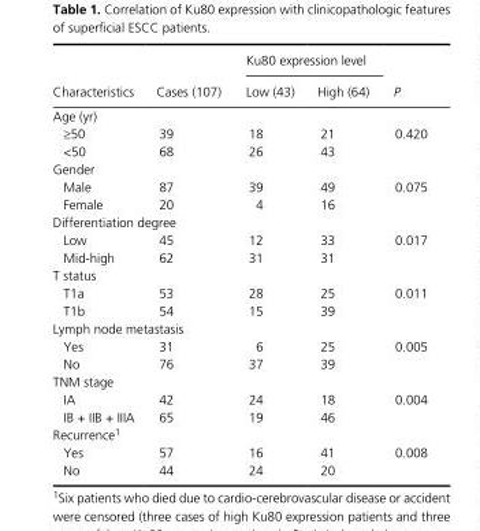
<table><thead><tr><td rowspan="2">Characteristics</td><td rowspan="2">Cases (107)</td><td colspan="2">Ku80 expression level</td><td rowspan="2">P</td></tr><tr><td>Low (43)</td><td>High (64)</td></tr></thead><tbody><tr><td colspan="5">Age (yr)</td></tr><tr><td>≥50</td><td>39</td><td>18</td><td>21</td><td>0.420</td></tr><tr><td>&lt;50</td><td>68</td><td>26</td><td>43</td><td></td></tr><tr><td colspan="5">Gender</td></tr><tr><td>Male</td><td>87</td><td>39</td><td>49</td><td>0.075</td></tr><tr><td>Female</td><td>20</td><td>4</td><td>16</td><td></td></tr><tr><td colspan="5">Differentiation degree</td></tr><tr><td>Low</td><td>45</td><td>12</td><td>33</td><td>0.017</td></tr><tr><td>Mid- high</td><td>62</td><td>31</td><td>31</td><td></td></tr><tr><td colspan="5">T status</td></tr><tr><td>T1a</td><td>53</td><td>28</td><td>25</td><td>0.011</td></tr><tr><td>T1b</td><td>54</td><td>15</td><td>39</td><td></td></tr><tr><td colspan="5">Lymph node metastasis</td></tr><tr><td>Yes</td><td>31</td><td>6</td><td>25</td><td>0.005</td></tr><tr><td>No</td><td>76</td><td>37</td><td>39</td><td></td></tr><tr><td colspan="5">TNM stage</td></tr><tr><td>IA</td><td>42</td><td>24</td><td>18</td><td>0.004</td></tr><tr><td>IB + IIB + IIIA</td><td>65</td><td>19</td><td>46</td><td></td></tr><tr><td colspan="5">Recurrence1</td></tr><tr><td>Yes</td><td>57</td><td>16</td><td>41</td><td>0.008</td></tr><tr><td>No</td><td>44</td><td>24</td><td>20</td><td></td></tr></tbody></table>